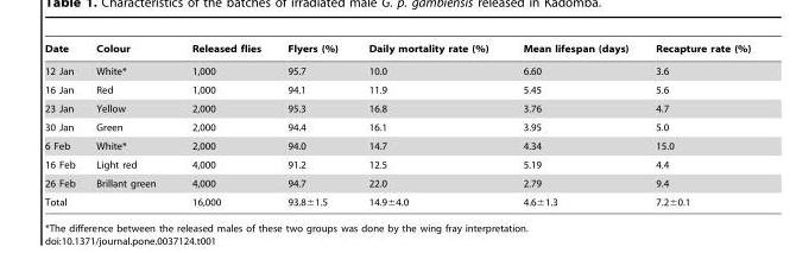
<table><thead><tr><td>Date</td><td>Colour</td><td>Released flies</td><td>Flyers (%)</td><td>Daily mortality rate (%)</td><td>Mean lifespan (days)</td><td>Recapture rate (%)</td></tr></thead><tbody><tr><td>12 Jan</td><td>White*</td><td>1,000</td><td>95.7</td><td>10.0</td><td>6.60</td><td>3.6</td></tr><tr><td>16 Jan</td><td>Red</td><td>1,000</td><td>94.1</td><td>11.9</td><td>5.45</td><td>5.6</td></tr><tr><td>23 Jan</td><td>Yellow</td><td>2,000</td><td>95.3</td><td>16.8</td><td>3.76</td><td>4.7</td></tr><tr><td>30 Jan</td><td>Green</td><td>2,000</td><td>94.4</td><td>16.1</td><td>3.95</td><td>5.0</td></tr><tr><td>6 Feb</td><td>White*</td><td>2,000</td><td>94.0</td><td>14.7</td><td>4.34</td><td>15.0</td></tr><tr><td>16 Feb</td><td>Light red</td><td>4,000</td><td>91.2</td><td>12.5</td><td>5.19</td><td>4.4</td></tr><tr><td>26 Feb</td><td>Brillant green</td><td>4,000</td><td>94.7</td><td>22.0</td><td>2.79</td><td>9.4</td></tr><tr><td>Total</td><td></td><td>16,000</td><td>93.8±1.5</td><td>14.9±4.0</td><td>4.6±1.3</td><td>7.2±0.1</td></tr></tbody></table>